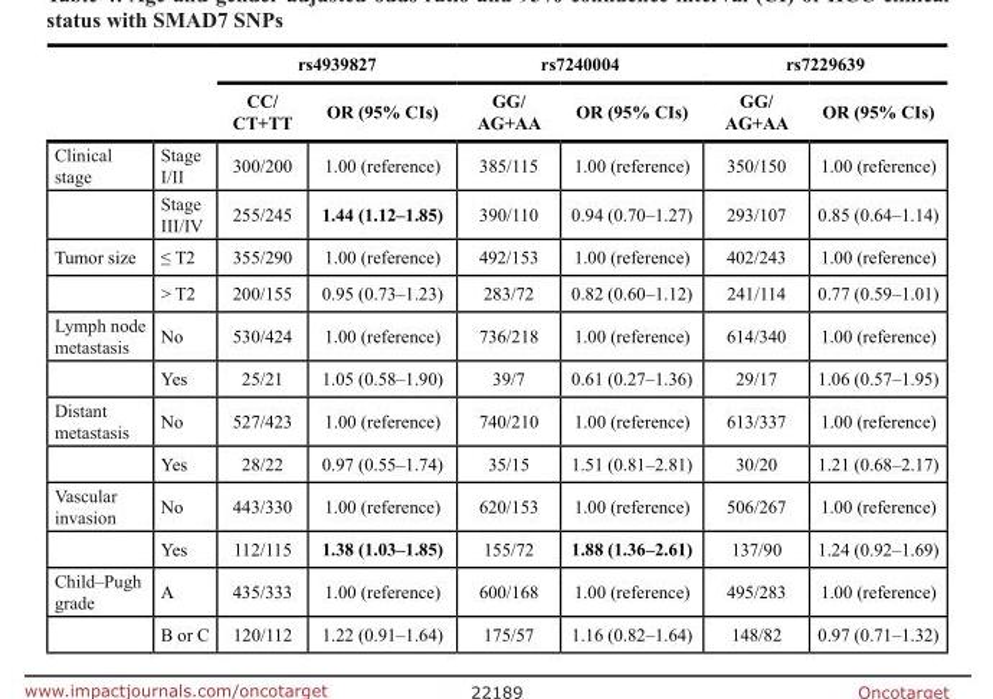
<table><thead><tr><td rowspan="2"></td><td rowspan="2"></td><td colspan="2">rs4939827</td><td colspan="2">rs7240004</td><td colspan="2">rs7229639</td></tr><tr><td>CC/ CT+TT</td><td>OR (95% CIs)</td><td>GG/ AG+AA</td><td>OR (95% CIs)</td><td>GG/ AG+AA</td><td>OR (95% CIs)</td></tr></thead><tbody><tr><td rowspan="2">Clinical stage</td><td>Stage I/II</td><td>300/200</td><td>1.00 (reference)</td><td>385/115</td><td>1.00 (reference)</td><td>350/150</td><td>1.00 (reference)</td></tr><tr><td>Stage III/IV</td><td>255/245</td><td>1.44 (1.12–1.85)</td><td>390/110</td><td>0.94 (0.70–1.27)</td><td>293/107</td><td>0.85 (0.64–1.14)</td></tr><tr><td rowspan="2">Tumor size</td><td>≤ T2</td><td>355/290</td><td>1.00 (reference)</td><td>492/153</td><td>1.00 (reference)</td><td>402/243</td><td>1.00 (reference)</td></tr><tr><td>&gt; T2</td><td>200/155</td><td>0.95 (0.73–1.23)</td><td>283/72</td><td>0.82 (0.60–1.12)</td><td>241/114</td><td>0.77 (0.59–1.01)</td></tr><tr><td rowspan="2">Lymph node metastasis</td><td>No</td><td>530/424</td><td>1.00 (reference)</td><td>736/218</td><td>1.00 (reference)</td><td>614/340</td><td>1.00 (reference)</td></tr><tr><td>Yes</td><td>25/21</td><td>1.05 (0.58–1.90)</td><td>39/7</td><td>0.61 (0.27–1.36)</td><td>29/17</td><td>1.06 (0.57–1.95)</td></tr><tr><td rowspan="2">Distant metastasis</td><td>No</td><td>527/423</td><td>1.00 (reference)</td><td>740/210</td><td>1.00 (reference)</td><td>613/337</td><td>1.00 (reference)</td></tr><tr><td>Yes</td><td>28/22</td><td>0.97 (0.55–1.74)</td><td>35/15</td><td>1.51 (0.81–2.81)</td><td>30/20</td><td>1.21 (0.68–2.17)</td></tr><tr><td rowspan="2">Vascular invasion</td><td>No</td><td>443/330</td><td>1.00 (reference)</td><td>620/153</td><td>1.00 (reference)</td><td>506/267</td><td>1.00 (reference)</td></tr><tr><td>Yes</td><td>112/115</td><td>1.38 (1.03–1.85)</td><td>155/72</td><td>1.88 (1.36–2.61)</td><td>137/90</td><td>1.24 (0.92–1.69)</td></tr><tr><td rowspan="2">Child–Pugh grade</td><td>A</td><td>435/333</td><td>1.00 (reference)</td><td>600/168</td><td>1.00 (reference)</td><td>495/283</td><td>1.00 (reference)</td></tr><tr><td>B or C</td><td>120/112</td><td>1.22 (0.91–1.64)</td><td>175/57</td><td>1.16 (0.82–1.64)</td><td>148/82</td><td>0.97 (0.71–1.32)</td></tr></tbody></table>